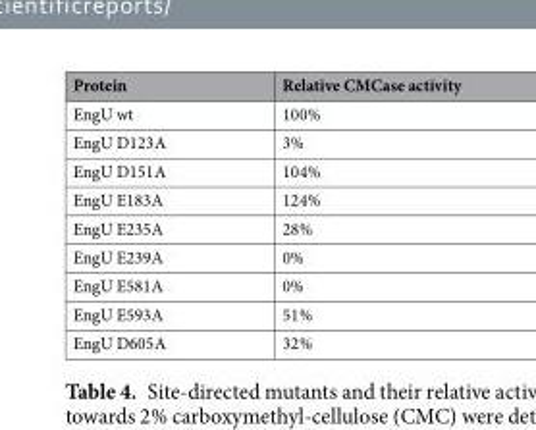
<table><thead><tr><td>Protein</td><td>Relative CMCase activity</td></tr></thead><tbody><tr><td>EngU wt</td><td>100%</td></tr><tr><td>EngU D123A</td><td>3%</td></tr><tr><td>EngU D151A</td><td>104%</td></tr><tr><td>EngU E183A</td><td>124%</td></tr><tr><td>EngU E235A</td><td>28%</td></tr><tr><td>EngU E239A</td><td>0%</td></tr><tr><td>EngU E581A</td><td>0%</td></tr><tr><td>EngU E593A</td><td>51%</td></tr><tr><td>EngU D605A</td><td>32%</td></tr></tbody></table>